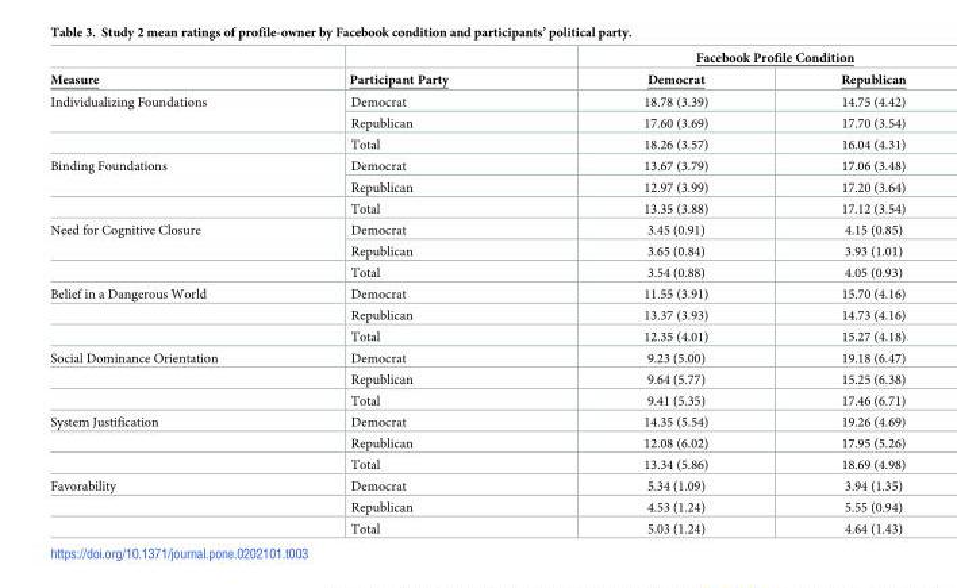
<table><thead><tr><td rowspan="2">Measure</td><td rowspan="2">Participant Party</td><td colspan="2">Facebook Profile Condition</td></tr><tr><td>Democrat</td><td>Republican</td></tr></thead><tbody><tr><td rowspan="3">Individualizing Foundations</td><td>Democrat</td><td>18.78 (3.39)</td><td>14.75 (4.42)</td></tr><tr><td>Republican</td><td>17.60 (3.69)</td><td>17.70 (3.54)</td></tr><tr><td>Total</td><td>18.26 (3.57)</td><td>16.04 (4.31)</td></tr><tr><td rowspan="3">Binding Foundations</td><td>Democrat</td><td>13.67 (3.79)</td><td>17.06 (3.48)</td></tr><tr><td>Republican</td><td>12.97 (3.99)</td><td>17.20 (3.64)</td></tr><tr><td>Total</td><td>13.35 (3.88)</td><td>17.12 (3.54)</td></tr><tr><td rowspan="3">Need for Cognitive Closure</td><td>Democrat</td><td>3.45 (0.91)</td><td>4.15 (0.85)</td></tr><tr><td>Republican</td><td>3.65 (0.84)</td><td>3.93 (1.01)</td></tr><tr><td>Total</td><td>3.54 (0.88)</td><td>4.05 (0.93)</td></tr><tr><td rowspan="3">Belief in a Dangerous World</td><td>Democrat</td><td>11.55 (3.91)</td><td>15.70 (4.16)</td></tr><tr><td>Republican</td><td>13.37 (3.93)</td><td>14.73 (4.16)</td></tr><tr><td>Total</td><td>12.35 (4.01)</td><td>15.27 (4.18)</td></tr><tr><td rowspan="3">Social Dominance Orientation</td><td>Democrat</td><td>9.23 (5.00)</td><td>19.18 (6.47)</td></tr><tr><td>Republican</td><td>9.64 (5.77)</td><td>15.25 (6.38)</td></tr><tr><td>Total</td><td>9.41 (5.35)</td><td>17.46 (6.71)</td></tr><tr><td rowspan="3">System Justification</td><td>Democrat</td><td>14.35 (5.54)</td><td>19.26 (4.69)</td></tr><tr><td>Republican</td><td>12.08 (6.02)</td><td>17.95 (5.26)</td></tr><tr><td>Total</td><td>13.34 (5.86)</td><td>18.69 (4.98)</td></tr><tr><td rowspan="3">Favorability</td><td>Democrat</td><td>5.34 (1.09)</td><td>3.94 (1.35)</td></tr><tr><td>Republican</td><td>4.53 (1.24)</td><td>5.55 (0.94)</td></tr><tr><td>Total</td><td>5.03 (1.24)</td><td>4.64 (1.43)</td></tr></tbody></table>